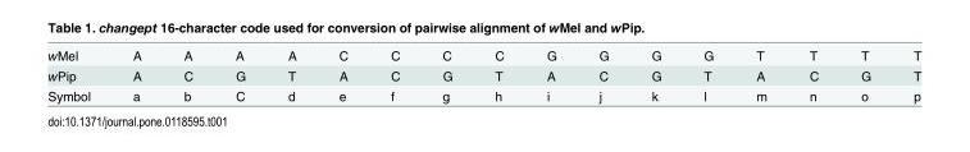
<table><tbody><tr><td>wMel</td><td>A</td><td>A</td><td>A</td><td>A</td><td>C</td><td>C</td><td>C</td><td>C</td><td>G</td><td>G</td><td>G</td><td>G</td><td>T</td><td>T</td><td>T</td><td>T</td></tr><tr><td>wPip</td><td>A</td><td>C</td><td>G</td><td>T</td><td>A</td><td>C</td><td>G</td><td>T</td><td>A</td><td>C</td><td>G</td><td>T</td><td>A</td><td>C</td><td>G</td><td>T</td></tr><tr><td>Symbol</td><td>a</td><td>b</td><td>C</td><td>d</td><td>e</td><td>f</td><td>g</td><td>h</td><td>i</td><td>j</td><td>k</td><td>l</td><td>m</td><td>n</td><td>o</td><td>p</td></tr></tbody></table>